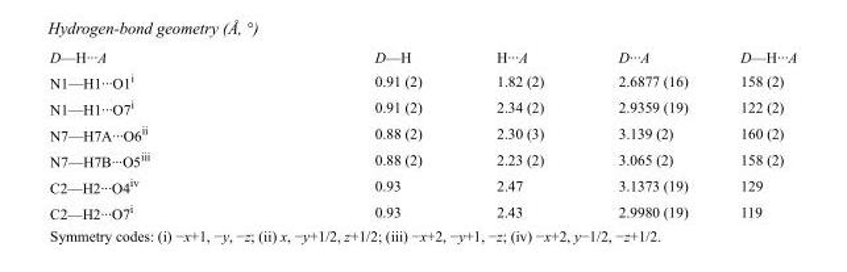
<table><tbody><tr><td>D—H···A</td><td>D—H</td><td>H···A</td><td>D···A</td><td>D—H···A</td></tr><tr><td>N1—H1···O1<sup>i</sup></td><td>0.91 (2)</td><td>1.82 (2)</td><td>2.6877 (16)</td><td>158 (2)</td></tr><tr><td>N1—H1···O7<sup>i</sup></td><td>0.91 (2)</td><td>2.34 (2)</td><td>2.9359 (19)</td><td>122 (2)</td></tr><tr><td>N7—H7A···O6<sup>ii</sup></td><td>0.88 (2)</td><td>2.30 (3)</td><td>3.139 (2)</td><td>160 (2)</td></tr><tr><td>N7—H7B···O5<sup>iii</sup></td><td>0.88 (2)</td><td>2.23 (2)</td><td>3.065 (2)</td><td>158 (2)</td></tr><tr><td>C2—H2···O4<sup>iv</sup></td><td>0.93</td><td>2.47</td><td>3.1373 (19)</td><td>129</td></tr><tr><td>C2—H2···O7<sup>i</sup></td><td>0.93</td><td>2.43</td><td>2.9980 (19)</td><td>119</td></tr></tbody></table>